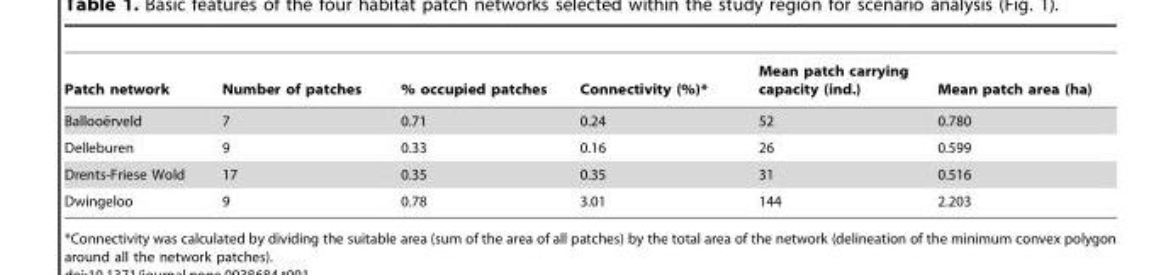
<table><thead><tr><td>Patch network</td><td>Number of patches</td><td>% occupied patches</td><td>Connectivity (%)*</td><td>Mean patch carrying capacity (ind.)</td><td>Mean patch area (ha)</td></tr></thead><tbody><tr><td>Ballooe¨rveld</td><td>7</td><td>0.71</td><td>0.24</td><td>52</td><td>0.780</td></tr><tr><td>Delleburen</td><td>9</td><td>0.33</td><td>0.16</td><td>26</td><td>0.599</td></tr><tr><td>Drents-Friese Wold</td><td>17</td><td>0.35</td><td>0.35</td><td>31</td><td>0.516</td></tr><tr><td>Dwingeloo</td><td>9</td><td>0.78</td><td>3.01</td><td>144</td><td>2.203</td></tr></tbody></table>